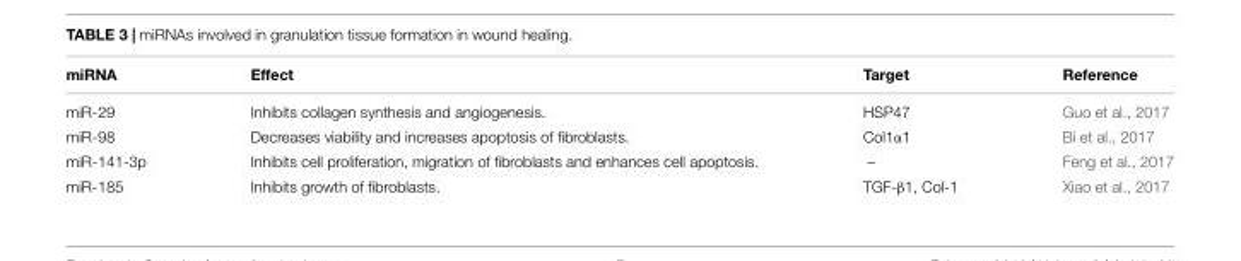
<table><thead><tr><td>miRNA</td><td>Effect</td><td>Target</td><td>Reference</td></tr></thead><tbody><tr><td>miR-29</td><td>Inhibits collagen synthesis and angiogenesis.</td><td>HSP47</td><td>Guo et al., 2017</td></tr><tr><td>miR-98</td><td>Decreases viability and increases apoptosis of fibroblasts.</td><td>Col1α1</td><td>Bi et al., 2017</td></tr><tr><td>miR-141-3p</td><td>Inhibits cell proliferation, migration of fibroblasts and enhances cell apoptosis.</td><td>–</td><td>Feng et al., 2017</td></tr><tr><td>miR-185</td><td>Inhibits growth of fibroblasts.</td><td>TGF-β1, Col-1</td><td>Xiao et al., 2017</td></tr></tbody></table>